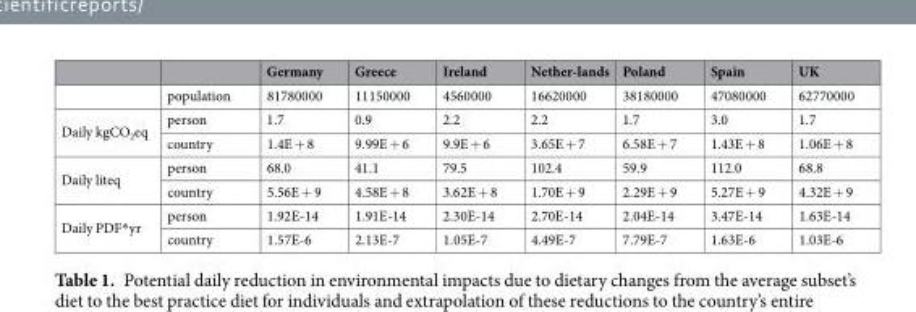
<table><thead><tr><td></td><td></td><td>Germany</td><td>Greece</td><td>Ireland</td><td>Nether-lands</td><td>Poland</td><td>Spain</td><td>UK</td></tr></thead><tbody><tr><td></td><td>population</td><td>81780000</td><td>11150000</td><td>4560000</td><td>16620000</td><td>38180000</td><td>47080000</td><td>62770000</td></tr><tr><td rowspan="2">Daily kgCO<sub>2</sub>eq</td><td>person</td><td>1.7</td><td>0.9</td><td>2.2</td><td>2.2</td><td>1.7</td><td>3.0</td><td>1.7</td></tr><tr><td>country</td><td>1.4E + 8</td><td>9.99E + 6</td><td>9.9E + 6</td><td>3.65E + 7</td><td>6.58E + 7</td><td>1.43E + 8</td><td>1.06E + 8</td></tr><tr><td rowspan="2">Daily liteq</td><td>person</td><td>68.0</td><td>41.1</td><td>79.5</td><td>102.4</td><td>59.9</td><td>112.0</td><td>68.8</td></tr><tr><td>country</td><td>5.56E + 9</td><td>4.58E + 8</td><td>3.62E + 8</td><td>1.70E + 9</td><td>2.29E + 9</td><td>5.27E + 9</td><td>4.32E + 9</td></tr><tr><td rowspan="2">Daily PDF*yr</td><td>person</td><td>1.92E-14</td><td>1.91E-14</td><td>2.30E-14</td><td>2.70E-14</td><td>2.04E-14</td><td>3.47E-14</td><td>1.63E-14</td></tr><tr><td>country</td><td>1.57E-6</td><td>2.13E-7</td><td>1.05E-7</td><td>4.49E-7</td><td>7.79E-7</td><td>1.63E-6</td><td>1.03E-6</td></tr></tbody></table>